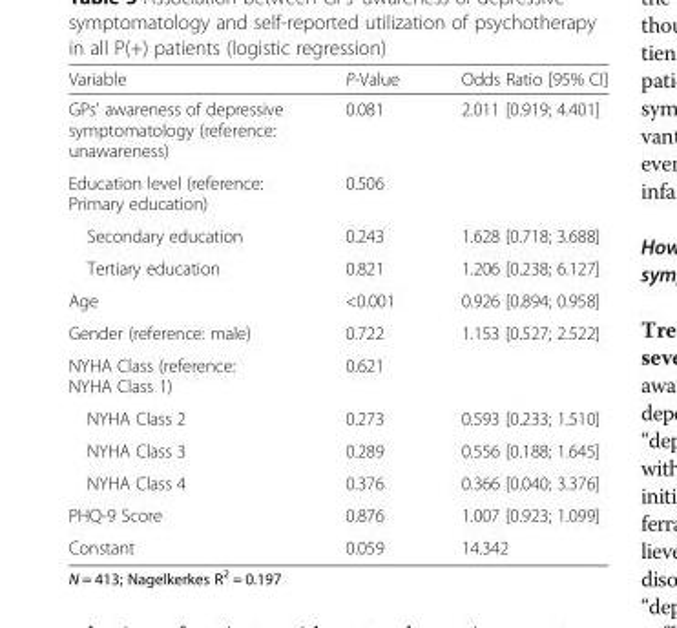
<table><thead><tr><td>Variable</td><td>P-Value</td><td>Odds Ratio [95% CI]</td></tr></thead><tbody><tr><td>GPs&#x27; awareness of depressive symptomatology (reference: unawareness)</td><td>0.081</td><td>2.011 [0.919; 4.401]</td></tr><tr><td>Education level (reference: Primary education)</td><td>0.506</td><td></td></tr><tr><td>Secondary education</td><td>0.243</td><td>1.628 [0.718; 3.688]</td></tr><tr><td>Tertiary education</td><td>0.821</td><td>1.206 [0.238; 6.127]</td></tr><tr><td>Age</td><td>&lt;0.001</td><td>0.926 [0.894; 0.958]</td></tr><tr><td>Gender (reference: male)</td><td>0.722</td><td>1.153 [0.527; 2.522]</td></tr><tr><td>NYHA Class (reference: NYHA Class 1)</td><td>0.621</td><td></td></tr><tr><td>NYHA Class 2</td><td>0.273</td><td>0.593 [0.233; 1.510]</td></tr><tr><td>NYHA Class 3</td><td>0.289</td><td>0.556 [0.188; 1.645]</td></tr><tr><td>NYHA Class 4</td><td>0.376</td><td>0.366 [0.040; 3.376]</td></tr><tr><td>PHQ-9 Score</td><td>0.876</td><td>1.007 [0.923; 1.099]</td></tr><tr><td>Constant</td><td>0.059</td><td>14.342</td></tr></tbody></table>